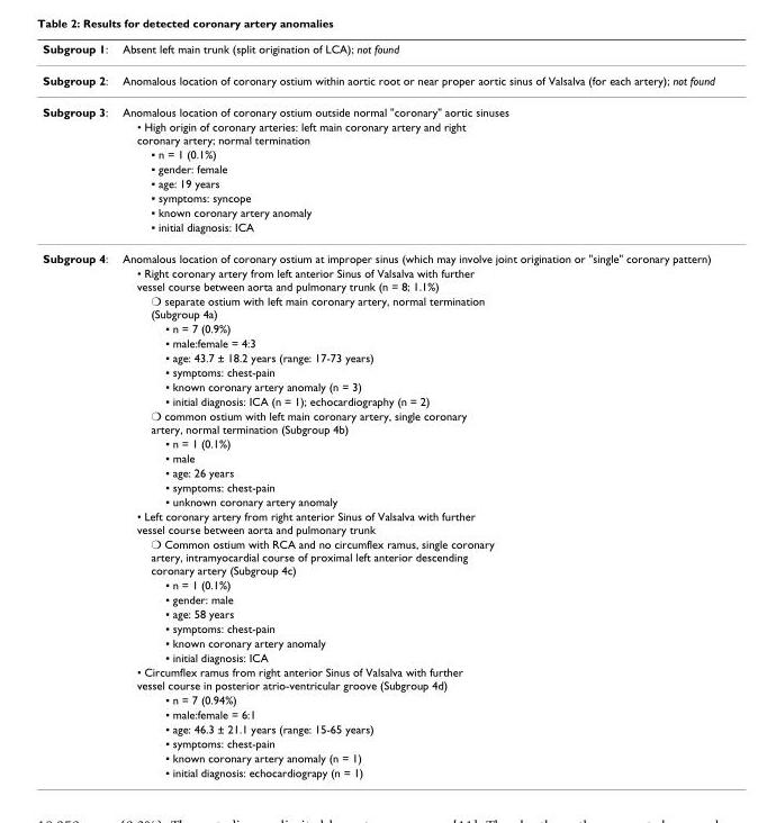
<table><thead><tr><td>Subgroup 1:</td><td>Absent left main trunk (split origination of LCA); not found</td></tr></thead><tbody><tr><td>Subgroup 2:</td><td>Anomalous location of coronary ostium within aortic root or near proper aortic sinus of Valsalva (for each artery); not found</td></tr><tr><td rowspan="8">Subgroup 3:</td><td>Anomalous location of coronary ostium outside normal &quot;coronary&quot; aortic sinuses</td></tr><tr><td>• High origin of coronary arteries: left main coronary artery and right coronary artery; normal termination</td></tr><tr><td>▪ n = 1 (0.1%)</td></tr><tr><td>▪ gender: female</td></tr><tr><td>▪ age: 19 years</td></tr><tr><td>▪ symptoms: syncope</td></tr><tr><td>▪ known coronary artery anomaly</td></tr><tr><td>▪ initial diagnosis: ICA</td></tr><tr><td rowspan="30">Subgroup 4:</td><td>Anomalous location of coronary ostium at improper sinus (which may involve joint origination or &quot;single&quot; coronary pattern)</td></tr><tr><td>• Right coronary artery from left anterior Sinus of Valsalva with further vessel course between aorta and pulmonary trunk (n = 8; 1.1%)</td></tr><tr><td>❍ separate ostium with left main coronary artery, normal termination (Subgroup 4a)</td></tr><tr><td>▪ n = 7 (0.9%)</td></tr><tr><td>▪ male:female = 4:3</td></tr><tr><td>▪ age: 43.7 ± 18.2 years (range: 17-73 years)</td></tr><tr><td>▪ symptoms: chest-pain</td></tr><tr><td>▪ known coronary artery anomaly (n = 3)</td></tr><tr><td>▪ initial diagnosis: ICA (n = 1); echocardiography (n = 2)</td></tr><tr><td>❍ common ostium with left main coronary artery, single coronary artery, normal termination (Subgroup 4b)</td></tr><tr><td>▪ n = 1 (0.1%)</td></tr><tr><td>▪ male</td></tr><tr><td>▪ age: 26 years</td></tr><tr><td>▪ symptoms: chest-pain</td></tr><tr><td>▪ unknown coronary artery anomaly</td></tr><tr><td>• Left coronary artery from right anterior Sinus of Valsalva with further vessel course between aorta and pulmonary trunk</td></tr><tr><td>❍ Common ostium with RCA and no circumflex ramus, single coronary artery, intramyocardial course of proximal left anterior descending coronary artery (Subgroup 4c)</td></tr><tr><td>▪ n = 1 (0.1%)</td></tr><tr><td>▪ gender: male</td></tr><tr><td>▪ age: 58 years</td></tr><tr><td>▪ symptoms: chest-pain</td></tr><tr><td>▪ known coronary artery anomaly</td></tr><tr><td>▪ initial diagnosis: ICA</td></tr><tr><td>• Circumflex ramus from right anterior Sinus of Valsalva with further vessel course in posterior atrio-ventricular groove (Subgroup 4d)</td></tr><tr><td>▪ n = 7 (0.94%)</td></tr><tr><td>▪ male:female = 6:1</td></tr><tr><td>▪ age: 46.3 ± 21.1 years (range: 15-65 years)</td></tr><tr><td>▪ symptoms: chest-pain</td></tr><tr><td>▪ known coronary artery anomaly (n = 1)</td></tr><tr><td>▪ initial diagnosis: echocardiograpy (n = 1)</td></tr></tbody></table>